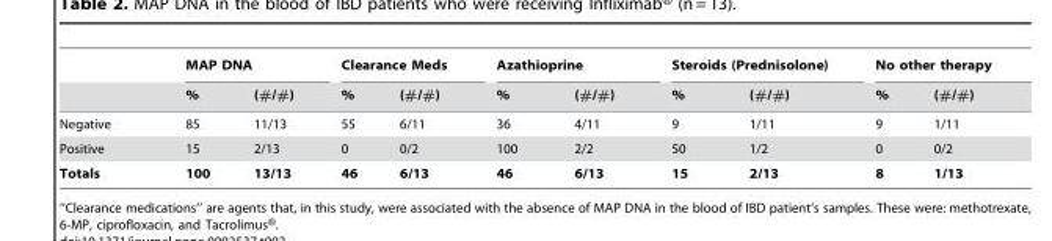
<table><thead><tr><td rowspan="2"></td><td colspan="2">MAP DNA</td><td colspan="2">Clearance Meds</td><td colspan="2">Azathioprine</td><td colspan="2">Steroids (Prednisolone)</td><td colspan="2">No other therapy</td></tr><tr><td>%</td><td>(#/#)</td><td>%</td><td>(#/#)</td><td>%</td><td>(#/#)</td><td>%</td><td>(#/#)</td><td>%</td><td>(#/#)</td></tr></thead><tbody><tr><td>Negative</td><td>85</td><td>11/13</td><td>55</td><td>6/11</td><td>36</td><td>4/11</td><td>9</td><td>1/11</td><td>9</td><td>1/11</td></tr><tr><td>Positive</td><td>15</td><td>2/13</td><td>0</td><td>0/2</td><td>100</td><td>2/2</td><td>50</td><td>1/2</td><td>0</td><td>0/2</td></tr><tr><td>Totals</td><td>100</td><td>13/13</td><td>46</td><td>6/13</td><td>46</td><td>6/13</td><td>15</td><td>2/13</td><td>8</td><td>1/13</td></tr></tbody></table>